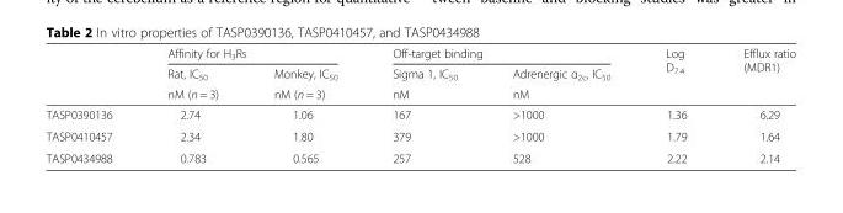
<table><thead><tr><td rowspan="3"></td><td colspan="2">Affinity for H<sub>3</sub>Rs</td><td colspan="2">Off-target binding</td><td rowspan="3">Log D<sub>7.4</sub></td><td rowspan="3">Efflux ratio (MDR1)</td></tr><tr><td rowspan="2">Rat, IC<sub>50</sub> nM (n = 3)</td><td rowspan="2">Monkey, IC<sub>50</sub> nM (n = 3)</td><td rowspan="2">Sigma 1, IC<sub>50</sub> nM</td><td rowspan="2">Adrenergic α<sub>2c</sub>, IC<sub>50</sub> nM</td></tr><tr></tr></thead><tbody><tr><td>TASP0390136</td><td>2.74</td><td>1.06</td><td>167</td><td>&gt;1000</td><td>1.36</td><td>6.29</td></tr><tr><td>TASP0410457</td><td>2.34</td><td>1.80</td><td>379</td><td>&gt;1000</td><td>1.79</td><td>1.64</td></tr><tr><td>TASP0434988</td><td>0.783</td><td>0.565</td><td>257</td><td>528</td><td>2.22</td><td>2.14</td></tr></tbody></table>